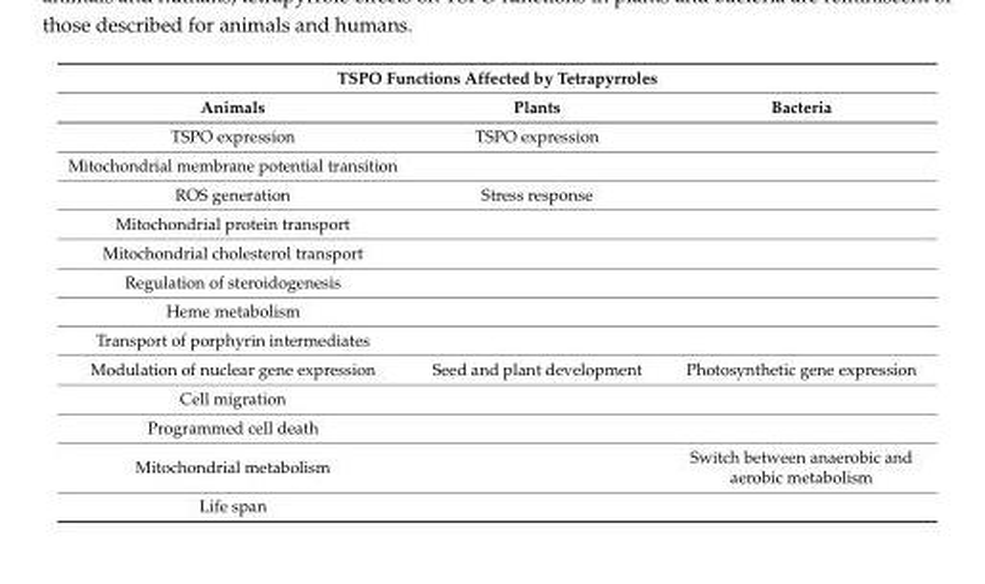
<table><thead><tr><td colspan="3">TSPO Functions Affected by Tetrapyrroles</td></tr><tr><td>Animals</td><td>Plants</td><td>Bacteria</td></tr></thead><tbody><tr><td>TSPO expression</td><td>TSPO expression</td><td></td></tr><tr><td colspan="3">Mitochondrial membrane potential transition</td></tr><tr><td>ROS generation</td><td>Stress response</td><td></td></tr><tr><td colspan="3">Mitochondrial protein transport</td></tr><tr><td colspan="3">Mitochondrial cholesterol transport</td></tr><tr><td colspan="3">Regulation of steroidogenesis</td></tr><tr><td colspan="3">Heme metabolism</td></tr><tr><td colspan="3">Transport of porphyrin intermediates</td></tr><tr><td>Modulation of nuclear gene expression</td><td>Seed and plant development</td><td>Photosynthetic gene expression</td></tr><tr><td colspan="3">Cell migration</td></tr><tr><td colspan="3">Programmed cell death</td></tr><tr><td>Mitochondrial metabolism</td><td></td><td>Switch between anaerobic and aerobic metabolism</td></tr><tr><td>Life span</td><td></td><td></td></tr></tbody></table>